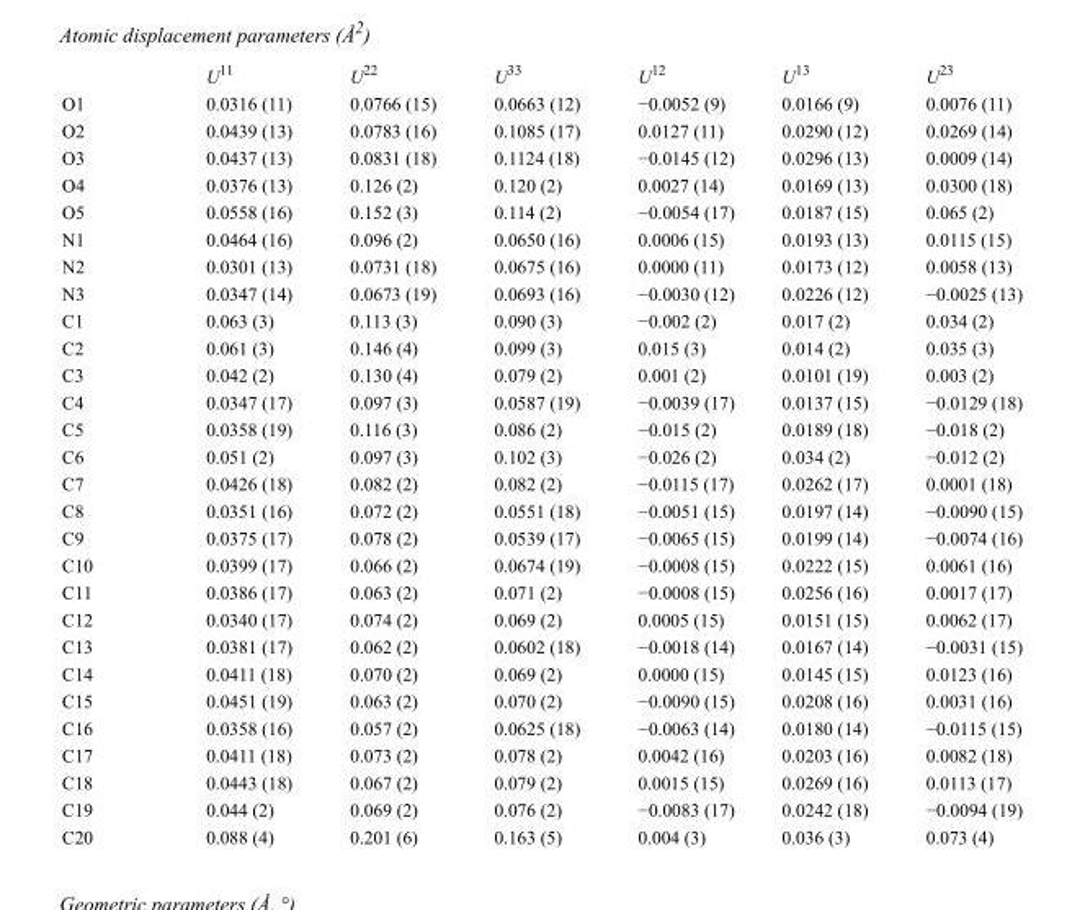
<table><thead><tr><td></td><td>U<sup>11</sup></td><td>U<sup>22</sup></td><td>U<sup>33</sup></td><td>U<sup>12</sup></td><td>U<sup>13</sup></td><td>U<sup>23</sup></td></tr></thead><tbody><tr><td>O1</td><td>0.0316 (11)</td><td>0.0766 (15)</td><td>0.0663 (12)</td><td>−0.0052 (9)</td><td>0.0166 (9)</td><td>0.0076 (11)</td></tr><tr><td>O2</td><td>0.0439 (13)</td><td>0.0783 (16)</td><td>0.1085 (17)</td><td>0.0127 (11)</td><td>0.0290 (12)</td><td>0.0269 (14)</td></tr><tr><td>O3</td><td>0.0437 (13)</td><td>0.0831 (18)</td><td>0.1124 (18)</td><td>−0.0145 (12)</td><td>0.0296 (13)</td><td>0.0009 (14)</td></tr><tr><td>O4</td><td>0.0376 (13)</td><td>0.126 (2)</td><td>0.120 (2)</td><td>0.0027 (14)</td><td>0.0169 (13)</td><td>0.0300 (18)</td></tr><tr><td>O5</td><td>0.0558 (16)</td><td>0.152 (3)</td><td>0.114 (2)</td><td>−0.0054 (17)</td><td>0.0187 (15)</td><td>0.065 (2)</td></tr><tr><td>N1</td><td>0.0464 (16)</td><td>0.096 (2)</td><td>0.0650 (16)</td><td>0.0006 (15)</td><td>0.0193 (13)</td><td>0.0115 (15)</td></tr><tr><td>N2</td><td>0.0301 (13)</td><td>0.0731 (18)</td><td>0.0675 (16)</td><td>0.0000 (11)</td><td>0.0173 (12)</td><td>0.0058 (13)</td></tr><tr><td>N3</td><td>0.0347 (14)</td><td>0.0673 (19)</td><td>0.0693 (16)</td><td>−0.0030 (12)</td><td>0.0226 (12)</td><td>−0.0025 (13)</td></tr><tr><td>C1</td><td>0.063 (3)</td><td>0.113 (3)</td><td>0.090 (3)</td><td>−0.002 (2)</td><td>0.017 (2)</td><td>0.034 (2)</td></tr><tr><td>C2</td><td>0.061 (3)</td><td>0.146 (4)</td><td>0.099 (3)</td><td>0.015 (3)</td><td>0.014 (2)</td><td>0.035 (3)</td></tr><tr><td>C3</td><td>0.042 (2)</td><td>0.130 (4)</td><td>0.079 (2)</td><td>0.001 (2)</td><td>0.0101 (19)</td><td>0.003 (2)</td></tr><tr><td>C4</td><td>0.0347 (17)</td><td>0.097 (3)</td><td>0.0587 (19)</td><td>−0.0039 (17)</td><td>0.0137 (15)</td><td>−0.0129 (18)</td></tr><tr><td>C5</td><td>0.0358 (19)</td><td>0.116 (3)</td><td>0.086 (2)</td><td>−0.015 (2)</td><td>0.0189 (18)</td><td>−0.018 (2)</td></tr><tr><td>C6</td><td>0.051 (2)</td><td>0.097 (3)</td><td>0.102 (3)</td><td>−0.026 (2)</td><td>0.034 (2)</td><td>−0.012 (2)</td></tr><tr><td>C7</td><td>0.0426 (18)</td><td>0.082 (2)</td><td>0.082 (2)</td><td>−0.0115 (17)</td><td>0.0262 (17)</td><td>0.0001 (18)</td></tr><tr><td>C8</td><td>0.0351 (16)</td><td>0.072 (2)</td><td>0.0551 (18)</td><td>−0.0051 (15)</td><td>0.0197 (14)</td><td>−0.0090 (15)</td></tr><tr><td>C9</td><td>0.0375 (17)</td><td>0.078 (2)</td><td>0.0539 (17)</td><td>−0.0065 (15)</td><td>0.0199 (14)</td><td>−0.0074 (16)</td></tr><tr><td>C10</td><td>0.0399 (17)</td><td>0.066 (2)</td><td>0.0674 (19)</td><td>−0.0008 (15)</td><td>0.0222 (15)</td><td>0.0061 (16)</td></tr><tr><td>C11</td><td>0.0386 (17)</td><td>0.063 (2)</td><td>0.071 (2)</td><td>−0.0008 (15)</td><td>0.0256 (16)</td><td>0.0017 (17)</td></tr><tr><td>C12</td><td>0.0340 (17)</td><td>0.074 (2)</td><td>0.069 (2)</td><td>0.0005 (15)</td><td>0.0151 (15)</td><td>0.0062 (17)</td></tr><tr><td>C13</td><td>0.0381 (17)</td><td>0.062 (2)</td><td>0.0602 (18)</td><td>−0.0018 (14)</td><td>0.0167 (14)</td><td>−0.0031 (15)</td></tr><tr><td>C14</td><td>0.0411 (18)</td><td>0.070 (2)</td><td>0.069 (2)</td><td>0.0000 (15)</td><td>0.0145 (15)</td><td>0.0123 (16)</td></tr><tr><td>C15</td><td>0.0451 (19)</td><td>0.063 (2)</td><td>0.070 (2)</td><td>−0.0090 (15)</td><td>0.0208 (16)</td><td>0.0031 (16)</td></tr><tr><td>C16</td><td>0.0358 (16)</td><td>0.057 (2)</td><td>0.0625 (18)</td><td>−0.0063 (14)</td><td>0.0180 (14)</td><td>−0.0115 (15)</td></tr><tr><td>C17</td><td>0.0411 (18)</td><td>0.073 (2)</td><td>0.078 (2)</td><td>0.0042 (16)</td><td>0.0203 (16)</td><td>0.0082 (18)</td></tr><tr><td>C18</td><td>0.0443 (18)</td><td>0.067 (2)</td><td>0.079 (2)</td><td>0.0015 (15)</td><td>0.0269 (16)</td><td>0.0113 (17)</td></tr><tr><td>C19</td><td>0.044 (2)</td><td>0.069 (2)</td><td>0.076 (2)</td><td>−0.0083 (17)</td><td>0.0242 (18)</td><td>−0.0094 (19)</td></tr><tr><td>C20</td><td>0.088 (4)</td><td>0.201 (6)</td><td>0.163 (5)</td><td>0.004 (3)</td><td>0.036 (3)</td><td>0.073 (4)</td></tr></tbody></table>